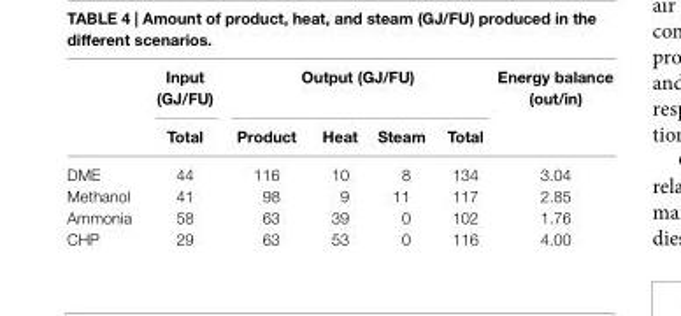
<table><thead><tr><td rowspan="2"></td><td rowspan="2">input (gJ/FU) Total</td><td colspan="4">Output (gJ/FU)</td><td rowspan="2">energy balance (out/in)</td></tr><tr><td>Product</td><td>heat</td><td>steam</td><td>Total</td></tr></thead><tbody><tr><td>DME</td><td>44</td><td>116</td><td>10</td><td>8</td><td>134</td><td>3.04</td></tr><tr><td>Methanol</td><td>41</td><td>98</td><td>9</td><td>11</td><td>117</td><td>2.85</td></tr><tr><td>Ammonia</td><td>58</td><td>63</td><td>39</td><td>0</td><td>102</td><td>1.76</td></tr><tr><td>CHP</td><td>29</td><td>63</td><td>53</td><td>0</td><td>116</td><td>4.00</td></tr></tbody></table>